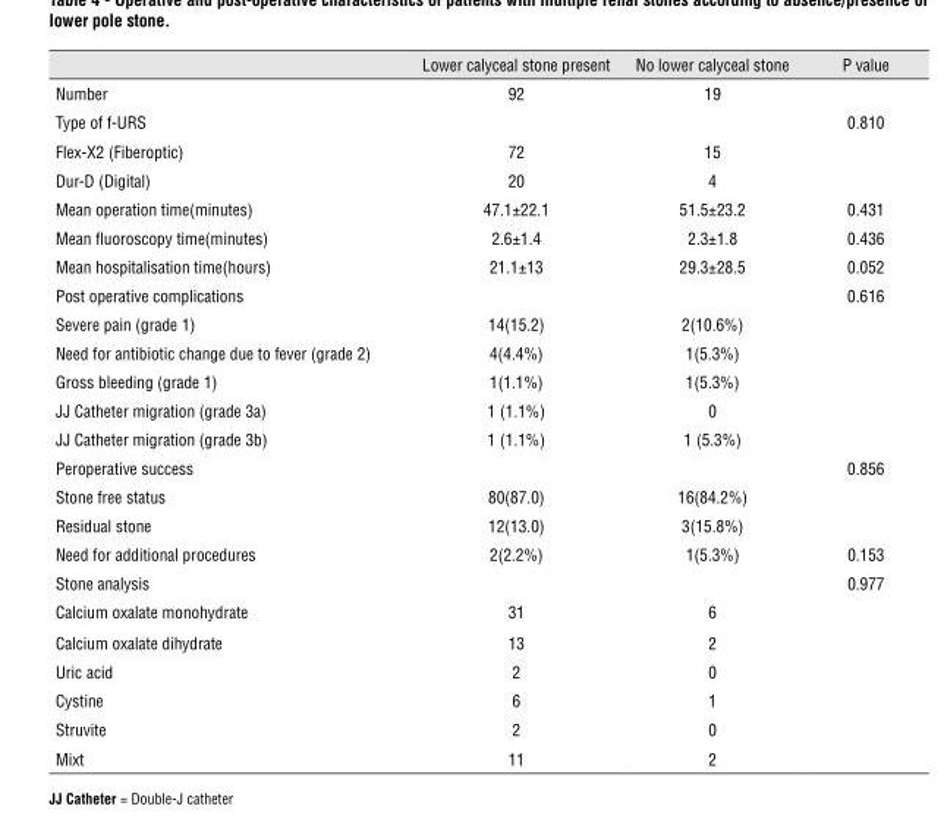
<table><thead><tr><td></td><td>Lower calyceal stone present</td><td>No lower calyceal stone</td><td>P value</td></tr></thead><tbody><tr><td>Number</td><td>92</td><td>19</td><td></td></tr><tr><td>Type of f-URS</td><td></td><td></td><td>0.810</td></tr><tr><td>Flex-X2 (Fiberoptic)</td><td>72</td><td>15</td><td></td></tr><tr><td>Dur-D (Digital)</td><td>20</td><td>4</td><td></td></tr><tr><td>Mean operation time(minutes)</td><td>47.1±22.1</td><td>51.5±23.2</td><td>0.431</td></tr><tr><td>Mean fluoroscopy time(minutes)</td><td>2.6±1.4</td><td>2.3±1.8</td><td>0.436</td></tr><tr><td>Mean hospitalisation time(hours)</td><td>21.1±13</td><td>29.3±28.5</td><td>0.052</td></tr><tr><td>Post operative complications</td><td></td><td></td><td>0.616</td></tr><tr><td>Severe pain (grade 1)</td><td>14(15.2)</td><td>2(10.6%)</td><td></td></tr><tr><td>Need for antibiotic change due to fever (grade 2)</td><td>4(4.4%)</td><td>1(5.3%)</td><td></td></tr><tr><td>Gross bleeding (grade 1)</td><td>1(1.1%)</td><td>1(5.3%)</td><td></td></tr><tr><td>JJ Catheter migration (grade 3a)</td><td>1 (1.1%)</td><td>0</td><td></td></tr><tr><td>JJ Catheter migration (grade 3b)</td><td>1 (1.1%)</td><td>1 (5.3%)</td><td></td></tr><tr><td>Peroperative success</td><td></td><td></td><td>0.856</td></tr><tr><td>Stone free status</td><td>80(87.0)</td><td>16(84.2%)</td><td></td></tr><tr><td>Residual stone</td><td>12(13.0)</td><td>3(15.8%)</td><td></td></tr><tr><td>Need for additional procedures</td><td>2(2.2%)</td><td>1(5.3%)</td><td>0.153</td></tr><tr><td>Stone analysis</td><td></td><td></td><td>0.977</td></tr><tr><td>Calcium oxalate monohydrate</td><td>31</td><td>6</td><td></td></tr><tr><td>Calcium oxalate dihydrate</td><td>13</td><td>2</td><td></td></tr><tr><td>Uric acid</td><td>2</td><td>0</td><td></td></tr><tr><td>Cystine</td><td>6</td><td>1</td><td></td></tr><tr><td>Struvite</td><td>2</td><td>0</td><td></td></tr><tr><td>Mixt</td><td>11</td><td>2</td><td></td></tr></tbody></table>